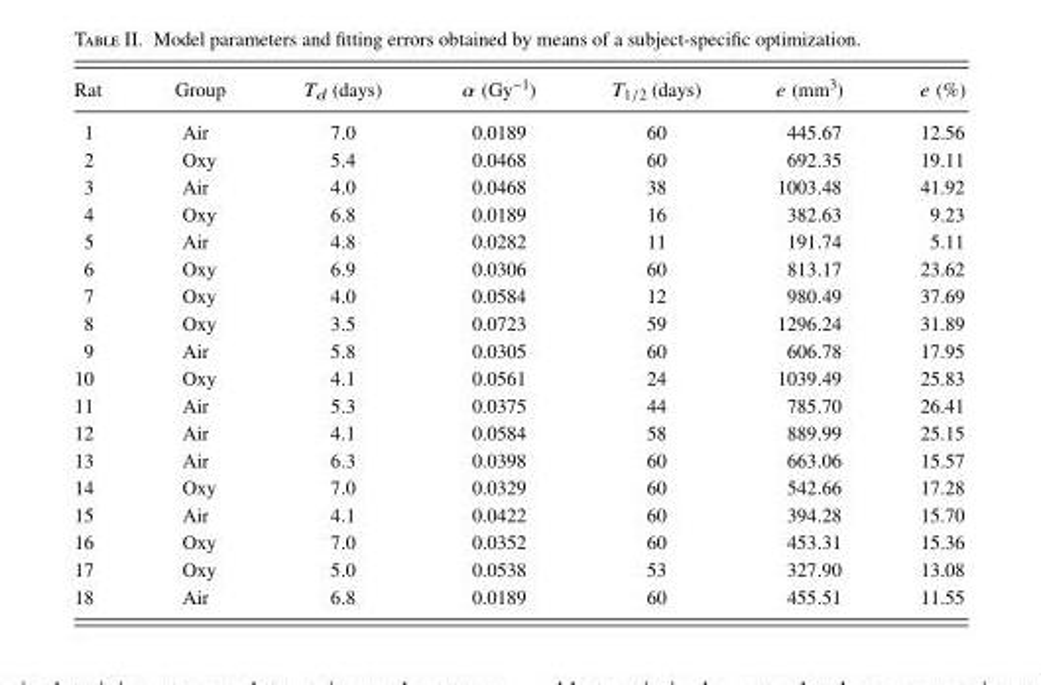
<table><thead><tr><td>Rat</td><td>Group</td><td>T<sub>d</sub> (days)</td><td>α (Gy<sup>−1</sup>)</td><td>T<sub>1/2</sub> (days)</td><td>e (mm<sup>3</sup>)</td><td>e (%)</td></tr></thead><tbody><tr><td>1</td><td>Air</td><td>7.0</td><td>0.0189</td><td>60</td><td>445.67</td><td>12.56</td></tr><tr><td>2</td><td>Oxy</td><td>5.4</td><td>0.0468</td><td>60</td><td>692.35</td><td>19.11</td></tr><tr><td>3</td><td>Air</td><td>4.0</td><td>0.0468</td><td>38</td><td>1003.48</td><td>41.92</td></tr><tr><td>4</td><td>Oxy</td><td>6.8</td><td>0.0189</td><td>16</td><td>382.63</td><td>9.23</td></tr><tr><td>5</td><td>Air</td><td>4.8</td><td>0.0282</td><td>11</td><td>191.74</td><td>5.11</td></tr><tr><td>6</td><td>Oxy</td><td>6.9</td><td>0.0306</td><td>60</td><td>813.17</td><td>23.62</td></tr><tr><td>7</td><td>Oxy</td><td>4.0</td><td>0.0584</td><td>12</td><td>980.49</td><td>37.69</td></tr><tr><td>8</td><td>Oxy</td><td>3.5</td><td>0.0723</td><td>59</td><td>1296.24</td><td>31.89</td></tr><tr><td>9</td><td>Air</td><td>5.8</td><td>0.0305</td><td>60</td><td>606.78</td><td>17.95</td></tr><tr><td>10</td><td>Oxy</td><td>4.1</td><td>0.0561</td><td>24</td><td>1039.49</td><td>25.83</td></tr><tr><td>11</td><td>Air</td><td>5.3</td><td>0.0375</td><td>44</td><td>785.70</td><td>26.41</td></tr><tr><td>12</td><td>Air</td><td>4.1</td><td>0.0584</td><td>58</td><td>889.99</td><td>25.15</td></tr><tr><td>13</td><td>Air</td><td>6.3</td><td>0.0398</td><td>60</td><td>663.06</td><td>15.57</td></tr><tr><td>14</td><td>Oxy</td><td>7.0</td><td>0.0329</td><td>60</td><td>542.66</td><td>17.28</td></tr><tr><td>15</td><td>Air</td><td>4.1</td><td>0.0422</td><td>60</td><td>394.28</td><td>15.70</td></tr><tr><td>16</td><td>Oxy</td><td>7.0</td><td>0.0352</td><td>60</td><td>453.31</td><td>15.36</td></tr><tr><td>17</td><td>Oxy</td><td>5.0</td><td>0.0538</td><td>53</td><td>327.90</td><td>13.08</td></tr><tr><td>18</td><td>Air</td><td>6.8</td><td>0.0189</td><td>60</td><td>455.51</td><td>11.55</td></tr></tbody></table>